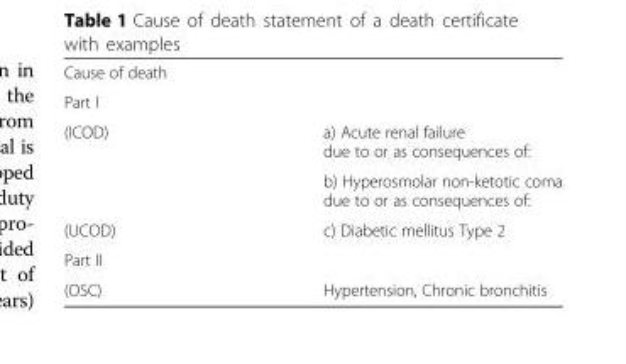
<table><tbody><tr><td colspan="2">Cause of death</td></tr><tr><td colspan="2">Part I</td></tr><tr><td rowspan="2">(ICOD)</td><td>a) Acute renal failure due to or as consequences of:</td></tr><tr><td>b) Hyperosmolar non-ketotic coma due to or as consequences of:</td></tr><tr><td>(UCOD)</td><td>c) Diabetic mellitus Type 2</td></tr><tr><td colspan="2">Part II</td></tr><tr><td>(OSC)</td><td>Hypertension, Chronic bronchitis</td></tr></tbody></table>